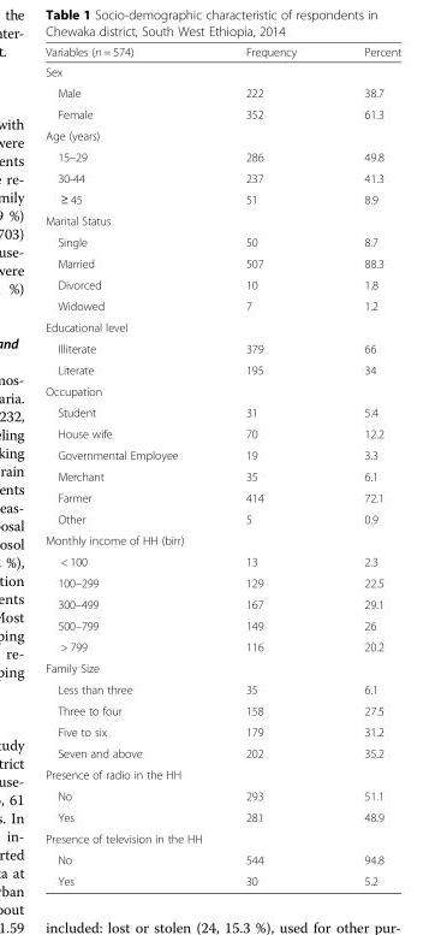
<table><thead><tr><td>Variables (n = 574)</td><td>Frequency</td><td>Percent</td></tr></thead><tbody><tr><td colspan="3">Sex</td></tr><tr><td>Male</td><td>222</td><td>38.7</td></tr><tr><td>Female</td><td>352</td><td>61.3</td></tr><tr><td colspan="3">Age (years)</td></tr><tr><td>15–29</td><td>286</td><td>49.8</td></tr><tr><td>30-44</td><td>237</td><td>41.3</td></tr><tr><td>≥ 45</td><td>51</td><td>8.9</td></tr><tr><td colspan="3">Marital Status</td></tr><tr><td>Single</td><td>50</td><td>8.7</td></tr><tr><td>Married</td><td>507</td><td>88.3</td></tr><tr><td>Divorced</td><td>10</td><td>1.8</td></tr><tr><td>Widowed</td><td>7</td><td>1.2</td></tr><tr><td colspan="3">Educational level</td></tr><tr><td>Illiterate</td><td>379</td><td>66</td></tr><tr><td>Literate</td><td>195</td><td>34</td></tr><tr><td colspan="3">Occupation</td></tr><tr><td>Student</td><td>31</td><td>5.4</td></tr><tr><td>House wife</td><td>70</td><td>12.2</td></tr><tr><td>Governmental Employee</td><td>19</td><td>3.3</td></tr><tr><td>Merchant</td><td>35</td><td>6.1</td></tr><tr><td>Farmer</td><td>414</td><td>72.1</td></tr><tr><td>Other</td><td>5</td><td>0.9</td></tr><tr><td colspan="3">Monthly income of HH (birr)</td></tr><tr><td>&lt; 100</td><td>13</td><td>2.3</td></tr><tr><td>100–299</td><td>129</td><td>22.5</td></tr><tr><td>300–499</td><td>167</td><td>29.1</td></tr><tr><td>500–799</td><td>149</td><td>26</td></tr><tr><td>&gt; 799</td><td>116</td><td>20.2</td></tr><tr><td colspan="3">Family Size</td></tr><tr><td>Less than three</td><td>35</td><td>6.1</td></tr><tr><td>Three to four</td><td>158</td><td>27.5</td></tr><tr><td>Five to six</td><td>179</td><td>31.2</td></tr><tr><td>Seven and above</td><td>202</td><td>35.2</td></tr><tr><td colspan="3">Presence of radio in the HH</td></tr><tr><td>No</td><td>293</td><td>51.1</td></tr><tr><td>Yes</td><td>281</td><td>48.9</td></tr><tr><td colspan="3">Presence of television in the HH</td></tr><tr><td>No</td><td>544</td><td>94.8</td></tr><tr><td>Yes</td><td>30</td><td>5.2</td></tr></tbody></table>